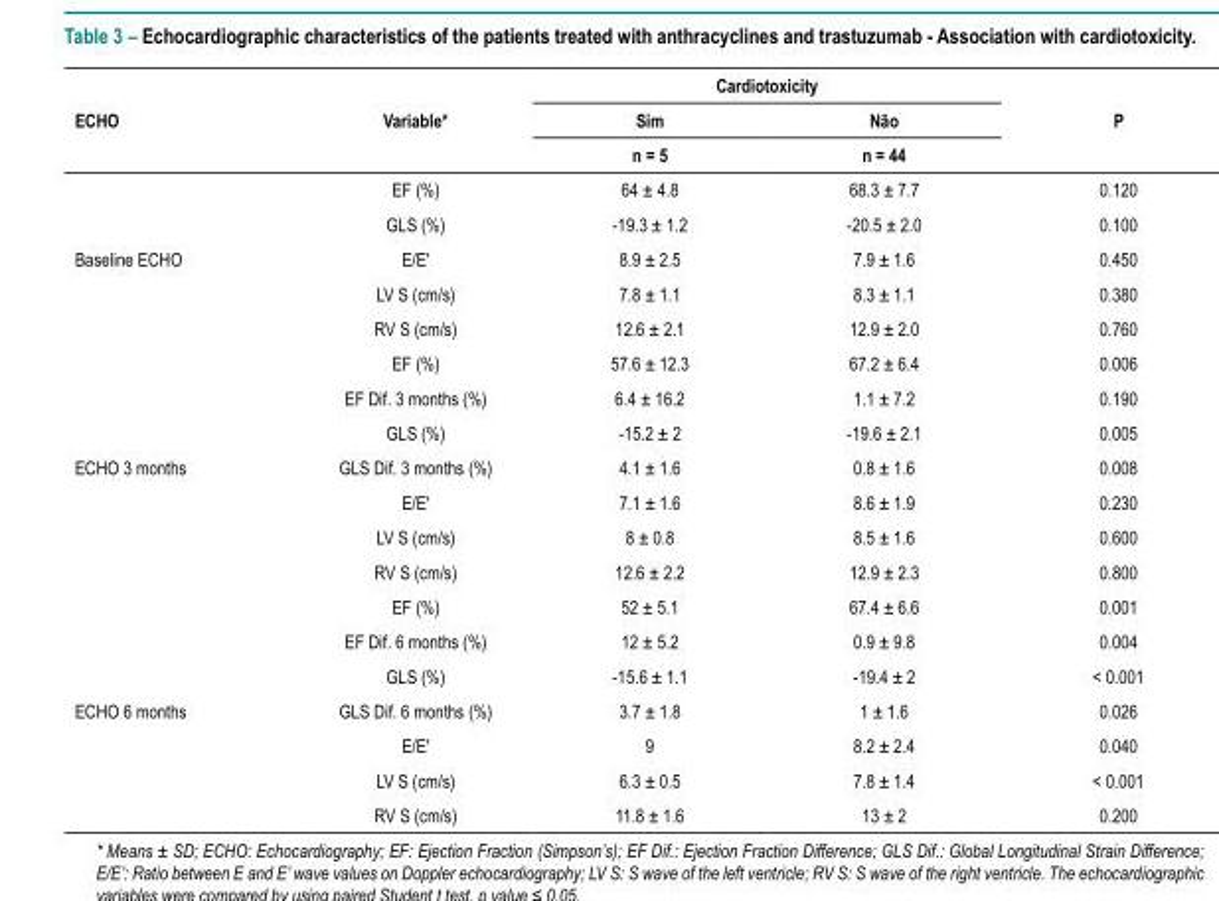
<table><thead><tr><td rowspan="3">ECHO</td><td rowspan="3">Variable*</td><td colspan="2">Cardiotoxicity</td><td rowspan="3">P</td></tr><tr><td rowspan="2">Sim n = 5</td><td rowspan="2">Não n = 44</td></tr><tr></tr></thead><tbody><tr><td rowspan="5">Baseline ECHO</td><td>EF (%)</td><td>64 ± 4.8</td><td>68.3 ± 7.7</td><td>0.120</td></tr><tr><td>GLS (%)</td><td>-19.3 ± 1.2</td><td>-20.5 ± 2.0</td><td>0.100</td></tr><tr><td>E/E&#x27;</td><td>8.9 ± 2.5</td><td>7.9 ± 1.6</td><td>0.450</td></tr><tr><td>LV S (cm/s)</td><td>7.8 ± 1.1</td><td>8.3 ± 1.1</td><td>0.380</td></tr><tr><td>RV S (cm/s)</td><td>12.6 ± 2.1</td><td>12.9 ± 2.0</td><td>0.760</td></tr><tr><td rowspan="7">ECHO 3 months</td><td>EF (%)</td><td>57.6 ± 12.3</td><td>67.2 ± 6.4</td><td>0.006</td></tr><tr><td>EF Dif. 3 months (%)</td><td>6.4 ± 16.2</td><td>1.1 ± 7.2</td><td>0.190</td></tr><tr><td>GLS (%)</td><td>-15.2 ± 2</td><td>-19.6 ± 2.1</td><td>0.005</td></tr><tr><td>GLS Dif. 3 months (%)</td><td>4.1 ± 1.6</td><td>0.8 ± 1.6</td><td>0.008</td></tr><tr><td>E/E&#x27;</td><td>7.1 ± 1.6</td><td>8.6 ± 1.9</td><td>0.230</td></tr><tr><td>LV S (cm/s)</td><td>8 ± 0.8</td><td>8.5 ± 1.6</td><td>0.600</td></tr><tr><td>RV S (cm/s)</td><td>12.6 ± 2.2</td><td>12.9 ± 2.3</td><td>0.800</td></tr><tr><td rowspan="7">ECHO 6 months</td><td>EF (%)</td><td>52 ± 5.1</td><td>67.4 ± 6.6</td><td>0.001</td></tr><tr><td>EF Dif. 6 months (%)</td><td>12 ± 5.2</td><td>0.9 ± 9.8</td><td>0.004</td></tr><tr><td>GLS (%)</td><td>-15.6 ± 1.1</td><td>-19.4 ± 2</td><td>&lt; 0.001</td></tr><tr><td>GLS Dif. 6 months (%)</td><td>3.7 ± 1.8</td><td>1 ± 1.6</td><td>0.026</td></tr><tr><td>E/E&#x27;</td><td>9</td><td>8.2 ± 2.4</td><td>0.040</td></tr><tr><td>LV S (cm/s)</td><td>6.3 ± 0.5</td><td>7.8 ± 1.4</td><td>&lt; 0.001</td></tr><tr><td>RV S (cm/s)</td><td>11.8 ± 1.6</td><td>13 ± 2</td><td>0.200</td></tr></tbody></table>